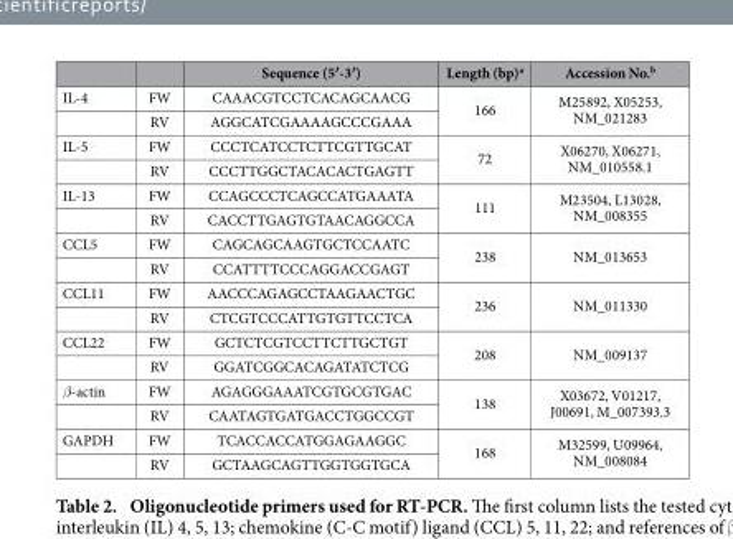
<table><thead><tr><td></td><td></td><td>Sequence (5′-3′)</td><td>Length (bp)<sup>a</sup></td><td>Accession No.<sup>b</sup></td></tr></thead><tbody><tr><td rowspan="2">IL-4</td><td>FW</td><td>CAAACGTCCTCACAGCAACG</td><td rowspan="2">166</td><td rowspan="2">M25892, X05253, NM_021283</td></tr><tr><td>RV</td><td>AGGCATCGAAAAGCCCGAAA</td></tr><tr><td rowspan="2">IL-5</td><td>FW</td><td>CCCTCATCCTCTTCGTTGCAT</td><td rowspan="2">72</td><td rowspan="2">X06270, X06271, NM_010558.1</td></tr><tr><td>RV</td><td>CCCTTGGCTACACACTGAGTT</td></tr><tr><td rowspan="2">IL-13</td><td>FW</td><td>CCAGCCCTCAGCCATGAAATA</td><td rowspan="2">111</td><td rowspan="2">M23504, L13028, NM_008355</td></tr><tr><td>RV</td><td>CACCTTGAGTGTAACAGGCCA</td></tr><tr><td rowspan="2">CCL5</td><td>FW</td><td>CAGCAGCAAGTGCTCCAATC</td><td rowspan="2">238</td><td rowspan="2">NM_013653</td></tr><tr><td>RV</td><td>CCATTTTCCCAGGACCGAGT</td></tr><tr><td rowspan="2">CCL11</td><td>FW</td><td>AACCCAGAGCCTAAGAACTGC</td><td rowspan="2">236</td><td rowspan="2">NM_011330</td></tr><tr><td>RV</td><td>CTCGTCCCATTGTGTTCCTCA</td></tr><tr><td rowspan="2">CCL22</td><td>FW</td><td>GCTCTCGTCCTTCTTGCTGT</td><td rowspan="2">208</td><td rowspan="2">NM_009137</td></tr><tr><td>RV</td><td>GGATCGGCACAGATATCTCG</td></tr><tr><td rowspan="2">β-actin</td><td>FW</td><td>AGAGGGAAATCGTGCGTGAC</td><td rowspan="2">138</td><td rowspan="2">X03672, V01217, J00691, M_007393.3</td></tr><tr><td>RV</td><td>CAATAGTGATGACCTGGCCGT</td></tr><tr><td rowspan="2">GAPDH</td><td>FW</td><td>TCACCACCATGGAGAAGGC</td><td rowspan="2">168</td><td rowspan="2">M32599, U09964, NM_008084</td></tr><tr><td>RV</td><td>GCTAAGCAGTTGGTGGTGCA</td></tr></tbody></table>